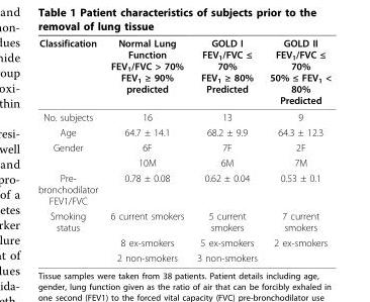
<table><thead><tr><td>Classification</td><td>Normal Lung Function FEV<sub>1</sub>/FVC &gt; 70% FEV<sub>1</sub> ≥ 90% predicted</td><td>GOLD I FEV<sub>1</sub>/FVC ≤ 70% FEV<sub>1</sub> ≥ 80% Predicted</td><td>GOLD II FEV<sub>1</sub>/FVC ≤ 70% 50% ≤ FEV<sub>1</sub> &lt; 80% Predicted</td></tr></thead><tbody><tr><td>No. subjects</td><td>16</td><td>13</td><td>9</td></tr><tr><td>Age</td><td>64.7 ± 14.1</td><td>68.2 ± 9.9</td><td>64.3 ± 12.3</td></tr><tr><td rowspan="2">Gender</td><td>6F</td><td>7F</td><td>2F</td></tr><tr><td>10M</td><td>6M</td><td>7M</td></tr><tr><td>Pre- bronchodilator FEV1/FVC</td><td>0.78 ± 0.08</td><td>0.62 ± 0.04</td><td>0.53 ± 0.1</td></tr><tr><td rowspan="3">Smoking status</td><td>6 current smokers</td><td>5 current smokers</td><td>7 current smokers</td></tr><tr><td>8 ex-smokers</td><td>5 ex-smokers</td><td>2 ex-smokers</td></tr><tr><td>2 non-smokers</td><td>3 non-smokers</td><td></td></tr></tbody></table>